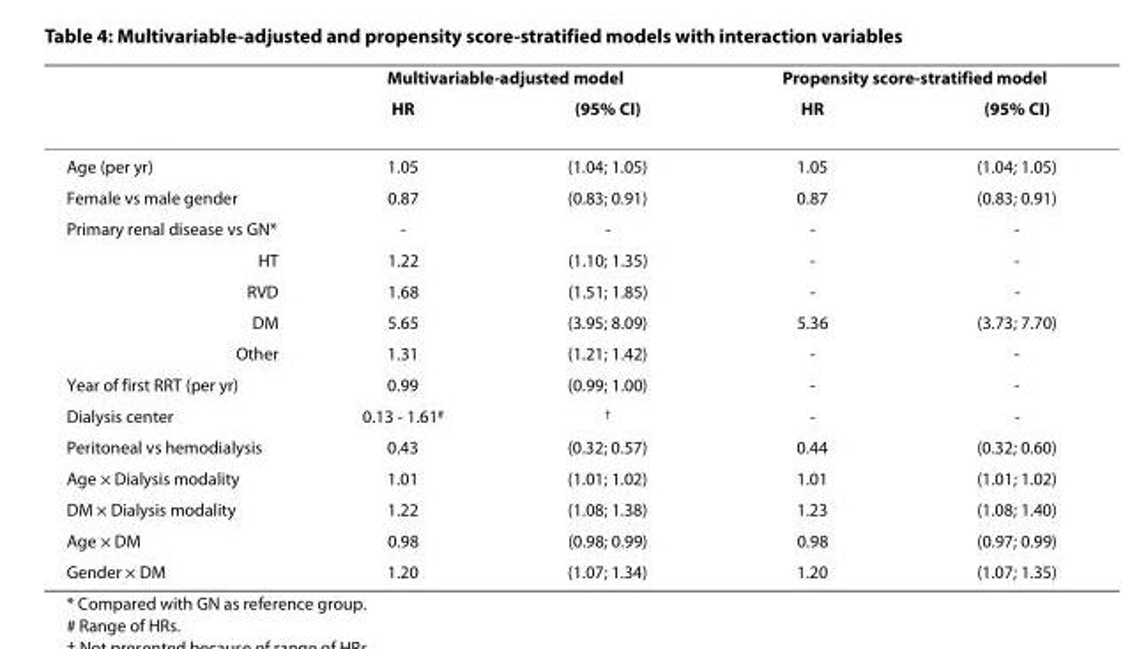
<table><thead><tr><td rowspan="2"></td><td colspan="2">Multivariable-adjusted model</td><td colspan="2">Propensity score-stratified model</td></tr><tr><td>HR</td><td>(95% CI)</td><td>HR</td><td>(95% CI)</td></tr></thead><tbody><tr><td>Age (per yr)</td><td>1.05</td><td>(1.04; 1.05)</td><td>1.05</td><td>(1.04; 1.05)</td></tr><tr><td>Female vs male gender</td><td>0.87</td><td>(0.83; 0.91)</td><td>0.87</td><td>(0.83; 0.91)</td></tr><tr><td>Primary renal disease vs GN*</td><td>-</td><td>-</td><td>-</td><td>-</td></tr><tr><td>HT</td><td>1.22</td><td>(1.10; 1.35)</td><td>-</td><td>-</td></tr><tr><td>RVD</td><td>1.68</td><td>(1.51; 1.85)</td><td>-</td><td>-</td></tr><tr><td>DM</td><td>5.65</td><td>(3.95; 8.09)</td><td>5.36</td><td>(3.73; 7.70)</td></tr><tr><td>Other</td><td>1.31</td><td>(1.21; 1.42)</td><td>-</td><td>-</td></tr><tr><td>Year of first RRT (per yr)</td><td>0.99</td><td>(0.99; 1.00)</td><td>-</td><td>-</td></tr><tr><td>Dialysis center</td><td>0.13 - 1.61<sup>#</sup></td><td><sup>†</sup></td><td>-</td><td>-</td></tr><tr><td>Peritoneal vs hemodialysis</td><td>0.43</td><td>(0.32; 0.57)</td><td>0.44</td><td>(0.32; 0.60)</td></tr><tr><td>Age × Dialysis modality</td><td>1.01</td><td>(1.01; 1.02)</td><td>1.01</td><td>(1.01; 1.02)</td></tr><tr><td>DM × Dialysis modality</td><td>1.22</td><td>(1.08; 1.38)</td><td>1.23</td><td>(1.08; 1.40)</td></tr><tr><td>Age × DM</td><td>0.98</td><td>(0.98; 0.99)</td><td>0.98</td><td>(0.97; 0.99)</td></tr><tr><td>Gender × DM</td><td>1.20</td><td>(1.07; 1.34)</td><td>1.20</td><td>(1.07; 1.35)</td></tr></tbody></table>